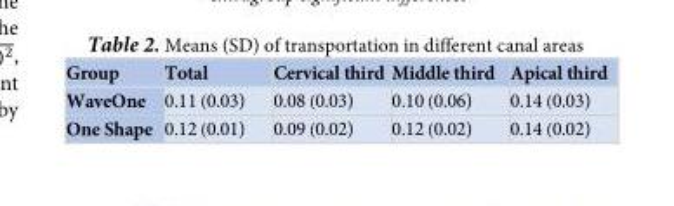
<table><thead><tr><td>Group</td><td>Total</td><td>Cervical third</td><td>Middle third</td><td>Apical third</td></tr></thead><tbody><tr><td>WaveOne</td><td>0.11 (0.03)</td><td>0.08 (0.03)</td><td>0.10 (0.06)</td><td>0.14 (0.03)</td></tr><tr><td>One Shape</td><td>0.12 (0.01)</td><td>0.09 (0.02)</td><td>0.12 (0.02)</td><td>0.14 (0.02)</td></tr></tbody></table>